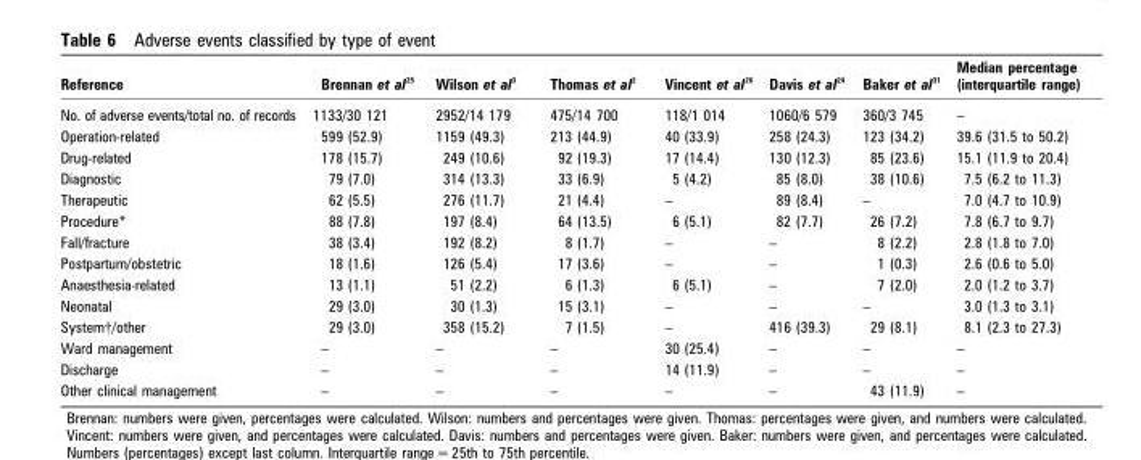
<table><thead><tr><td>Reference</td><td>Brennan et al <sup>25</sup></td><td>Wilson et al <sup>3</sup></td><td>Thomas et al <sup>2</sup></td><td>Vincent et al <sup>26</sup></td><td>Davis et al <sup>24</sup></td><td>Baker et al <sup>31</sup></td><td>Median percentage (interquartile range)</td></tr></thead><tbody><tr><td>No. of adverse events/total no. of records</td><td>1133/30 121</td><td>2952/14 179</td><td>475/14 700</td><td>118/1 014</td><td>1060/6 579</td><td>360/3 745</td><td>–</td></tr><tr><td>Operation-related</td><td>599 (52.9)</td><td>1159 (49.3)</td><td>213 (44.9)</td><td>40 (33.9)</td><td>258 (24.3)</td><td>123 (34.2)</td><td>39.6 (31.5 to 50.2)</td></tr><tr><td>Drug-related</td><td>178 (15.7)</td><td>249 (10.6)</td><td>92 (19.3)</td><td>17 (14.4)</td><td>130 (12.3)</td><td>85 (23.6)</td><td>15.1 (11.9 to 20.4)</td></tr><tr><td>Diagnostic</td><td>79 (7.0)</td><td>314 (13.3)</td><td>33 (6.9)</td><td>5 (4.2)</td><td>85 (8.0)</td><td>38 (10.6)</td><td>7.5 (6.2 to 11.3)</td></tr><tr><td>Therapeutic</td><td>62 (5.5)</td><td>276 (11.7)</td><td>21 (4.4)</td><td>–</td><td>89 (8.4)</td><td>–</td><td>7.0 (4.7 to 10.9)</td></tr><tr><td>Procedure*</td><td>88 (7.8)</td><td>197 (8.4)</td><td>64 (13.5)</td><td>6 (5.1)</td><td>82 (7.7)</td><td>26 (7.2)</td><td>7.8 (6.7 to 9.7)</td></tr><tr><td>Fall/fracture</td><td>38 (3.4)</td><td>192 (8.2)</td><td>8 (1.7)</td><td>–</td><td>–</td><td>8 (2.2)</td><td>2.8 (1.8 to 7.0)</td></tr><tr><td>Postpartum/obstetric</td><td>18 (1.6)</td><td>126 (5.4)</td><td>17 (3.6)</td><td>–</td><td>–</td><td>1 (0.3)</td><td>2.6 (0.6 to 5.0)</td></tr><tr><td>Anaesthesia-related</td><td>13 (1.1)</td><td>51 (2.2)</td><td>6 (1.3)</td><td>6 (5.1)</td><td>–</td><td>7 (2.0)</td><td>2.0 (1.2 to 3.7)</td></tr><tr><td>Neonatal</td><td>29 (3.0)</td><td>30 (1.3)</td><td>15 (3.1)</td><td>–</td><td>–</td><td>–</td><td>3.0 (1.3 to 3.1)</td></tr><tr><td>System†/other</td><td>29 (3.0)</td><td>358 (15.2)</td><td>7 (1.5)</td><td>–</td><td>416 (39.3)</td><td>29 (8.1)</td><td>8.1 (2.3 to 27.3)</td></tr><tr><td>Ward management</td><td>–</td><td>–</td><td>–</td><td>30 (25.4)</td><td>–</td><td>–</td><td>–</td></tr><tr><td>Discharge</td><td>–</td><td>–</td><td>–</td><td>14 (11.9)</td><td>–</td><td>–</td><td>–</td></tr><tr><td>Other clinical management</td><td>–</td><td>–</td><td>–</td><td>–</td><td>–</td><td>43 (11.9)</td><td>–</td></tr></tbody></table>